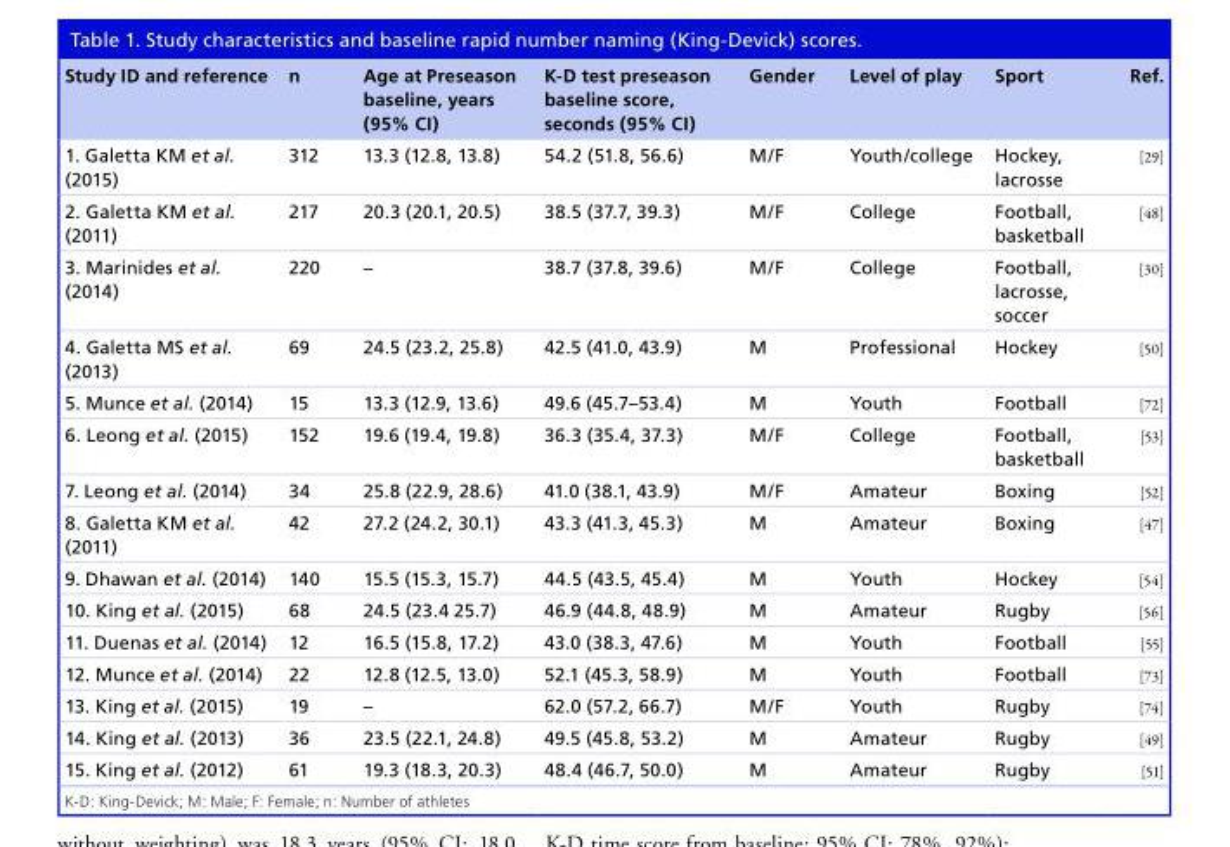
<table><thead><tr><td>Study ID and reference</td><td>n</td><td>Age at Preseason baseline, years (95% CI)</td><td>K-D test preseason baseline score, seconds (95% CI)</td><td>Gender</td><td>Level of play</td><td>Sport</td><td>Ref.</td></tr></thead><tbody><tr><td>1. Galetta KM et al. (2015)</td><td>312</td><td>13.3 (12.8, 13.8)</td><td>54.2 (51.8, 56.6)</td><td>M/F</td><td>Youth/college</td><td>Hockey, lacrosse</td><td>[29]</td></tr><tr><td>2. Galetta KM et al. (2011)</td><td>217</td><td>20.3 (20.1, 20.5)</td><td>38.5 (37.7, 39.3)</td><td>M/F</td><td>College</td><td>Football, basketball</td><td>[48]</td></tr><tr><td>3. Marinides et al. (2014)</td><td>220</td><td>–</td><td>38.7 (37.8, 39.6)</td><td>M/F</td><td>College</td><td>Football, lacrosse, soccer</td><td>[30]</td></tr><tr><td>4. Galetta MS et al. (2013)</td><td>69</td><td>24.5 (23.2, 25.8)</td><td>42.5 (41.0, 43.9)</td><td>M</td><td>Professional</td><td>Hockey</td><td>[50]</td></tr><tr><td>5. Munce et al. (2014)</td><td>15</td><td>13.3 (12.9, 13.6)</td><td>49.6 (45.7–53.4)</td><td>M</td><td>Youth</td><td>Football</td><td>[72]</td></tr><tr><td>6. Leong et al. (2015)</td><td>152</td><td>19.6 (19.4, 19.8)</td><td>36.3 (35.4, 37.3)</td><td>M/F</td><td>College</td><td>Football, basketball</td><td>[53]</td></tr><tr><td>7. Leong et al. (2014)</td><td>34</td><td>25.8 (22.9, 28.6)</td><td>41.0 (38.1, 43.9)</td><td>M/F</td><td>Amateur</td><td>Boxing</td><td>[52]</td></tr><tr><td>8. Galetta KM et al. (2011)</td><td>42</td><td>27.2 (24.2, 30.1)</td><td>43.3 (41.3, 45.3)</td><td>M</td><td>Amateur</td><td>Boxing</td><td>[47]</td></tr><tr><td>9. Dhawan et al. (2014)</td><td>140</td><td>15.5 (15.3, 15.7)</td><td>44.5 (43.5, 45.4)</td><td>M</td><td>Youth</td><td>Hockey</td><td>[54]</td></tr><tr><td>10. King et al. (2015)</td><td>68</td><td>24.5 (23.4 25.7)</td><td>46.9 (44.8, 48.9)</td><td>M</td><td>Amateur</td><td>Rugby</td><td>[56]</td></tr><tr><td>11. Duenas et al. (2014)</td><td>12</td><td>16.5 (15.8, 17.2)</td><td>43.0 (38.3, 47.6)</td><td>M</td><td>Youth</td><td>Football</td><td>[55]</td></tr><tr><td>12. Munce et al. (2014)</td><td>22</td><td>12.8 (12.5, 13.0)</td><td>52.1 (45.3, 58.9)</td><td>M</td><td>Youth</td><td>Football</td><td>[73]</td></tr><tr><td>13. King et al. (2015)</td><td>19</td><td>–</td><td>62.0 (57.2, 66.7)</td><td>M/F</td><td>Youth</td><td>Rugby</td><td>[74]</td></tr><tr><td>14. King et al. (2013)</td><td>36</td><td>23.5 (22.1, 24.8)</td><td>49.5 (45.8, 53.2)</td><td>M</td><td>Amateur</td><td>Rugby</td><td>[49]</td></tr><tr><td>15. King et al. (2012)</td><td>61</td><td>19.3 (18.3, 20.3)</td><td>48.4 (46.7, 50.0)</td><td>M</td><td>Amateur</td><td>Rugby</td><td>[51]</td></tr></tbody></table>